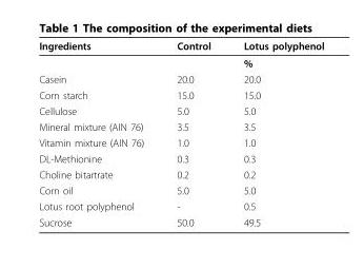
<table><thead><tr><td>Ingredients</td><td>Control</td><td>Lotus polyphenol</td></tr></thead><tbody><tr><td></td><td></td><td>%</td></tr><tr><td>Casein</td><td>20.0</td><td>20.0</td></tr><tr><td>Corn starch</td><td>15.0</td><td>15.0</td></tr><tr><td>Cellulose</td><td>5.0</td><td>5.0</td></tr><tr><td>Mineral mixture (AIN 76)</td><td>3.5</td><td>3.5</td></tr><tr><td>Vitamin mixture (AIN 76)</td><td>1.0</td><td>1.0</td></tr><tr><td>DL-Methionine</td><td>0.3</td><td>0.3</td></tr><tr><td>Choline bitartrate</td><td>0.2</td><td>0.2</td></tr><tr><td>Corn oil</td><td>5.0</td><td>5.0</td></tr><tr><td>Lotus root polyphenol</td><td>-</td><td>0.5</td></tr><tr><td>Sucrose</td><td>50.0</td><td>49.5</td></tr></tbody></table>